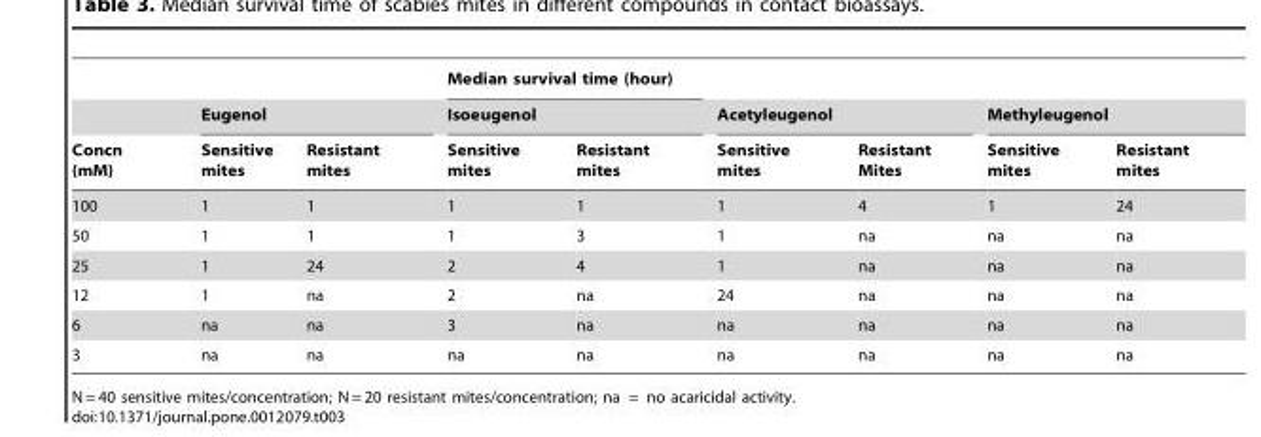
<table><thead><tr><td rowspan="3">Concn (mM)</td><td></td><td></td><td rowspan="2" colspan="2">Median survival time (hour) Isoeugenol</td><td></td><td></td><td></td><td></td></tr><tr><td colspan="2">Eugenol</td><td colspan="2">Acetyleugenol</td><td colspan="2">Methyleugenol</td></tr><tr><td>Sensitive mites</td><td>Resistant mites</td><td>Sensitive mites</td><td>Resistant mites</td><td>Sensitive mites</td><td>Resistant Mites</td><td>Sensitive mites</td><td>Resistant mites</td></tr></thead><tbody><tr><td>100</td><td>1</td><td>1</td><td>1</td><td>1</td><td>1</td><td>4</td><td>1</td><td>24</td></tr><tr><td>50</td><td>1</td><td>1</td><td>1</td><td>3</td><td>1</td><td>na</td><td>na</td><td>na</td></tr><tr><td>25</td><td>1</td><td>24</td><td>2</td><td>4</td><td>1</td><td>na</td><td>na</td><td>na</td></tr><tr><td>12</td><td>1</td><td>na</td><td>2</td><td>na</td><td>24</td><td>na</td><td>na</td><td>na</td></tr><tr><td>6</td><td>na</td><td>na</td><td>3</td><td>na</td><td>na</td><td>na</td><td>na</td><td>na</td></tr><tr><td>3</td><td>na</td><td>na</td><td>na</td><td>na</td><td>na</td><td>na</td><td>na</td><td>na</td></tr></tbody></table>